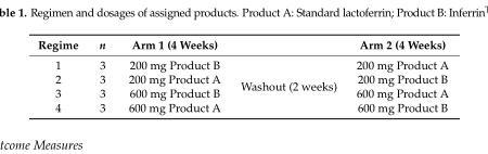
<table><thead><tr><td>Regime</td><td>n</td><td>Arm 1 (4 Weeks)</td><td></td><td>Arm 2 (4 Weeks)</td></tr></thead><tbody><tr><td>1</td><td>3</td><td>200 mg Product B</td><td rowspan="4">Washout (2 weeks)</td><td>200 mg Product A</td></tr><tr><td>2</td><td>3</td><td>200 mg Product A</td><td>200 mg Product B</td></tr><tr><td>3</td><td>3</td><td>600 mg Product B</td><td>600 mg Product A</td></tr><tr><td>4</td><td>3</td><td>600 mg Product A</td><td>600 mg Product B</td></tr></tbody></table>